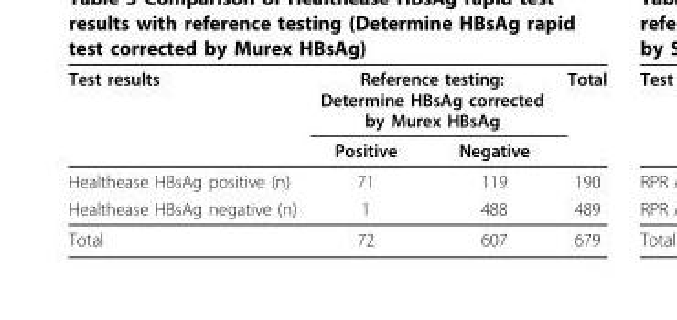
<table><thead><tr><td rowspan="2">Test results</td><td colspan="2">Reference testing: Determine HBsAg corrected by Murex HBsAg</td><td rowspan="2">Total</td></tr><tr><td>Positive</td><td>Negative</td></tr></thead><tbody><tr><td>Healthease HBsAg positive (n)</td><td>71</td><td>119</td><td>190</td></tr><tr><td>Healthease HBsAg negative (n)</td><td>1</td><td>488</td><td>489</td></tr><tr><td>Total</td><td>72</td><td>607</td><td>679</td></tr></tbody></table>